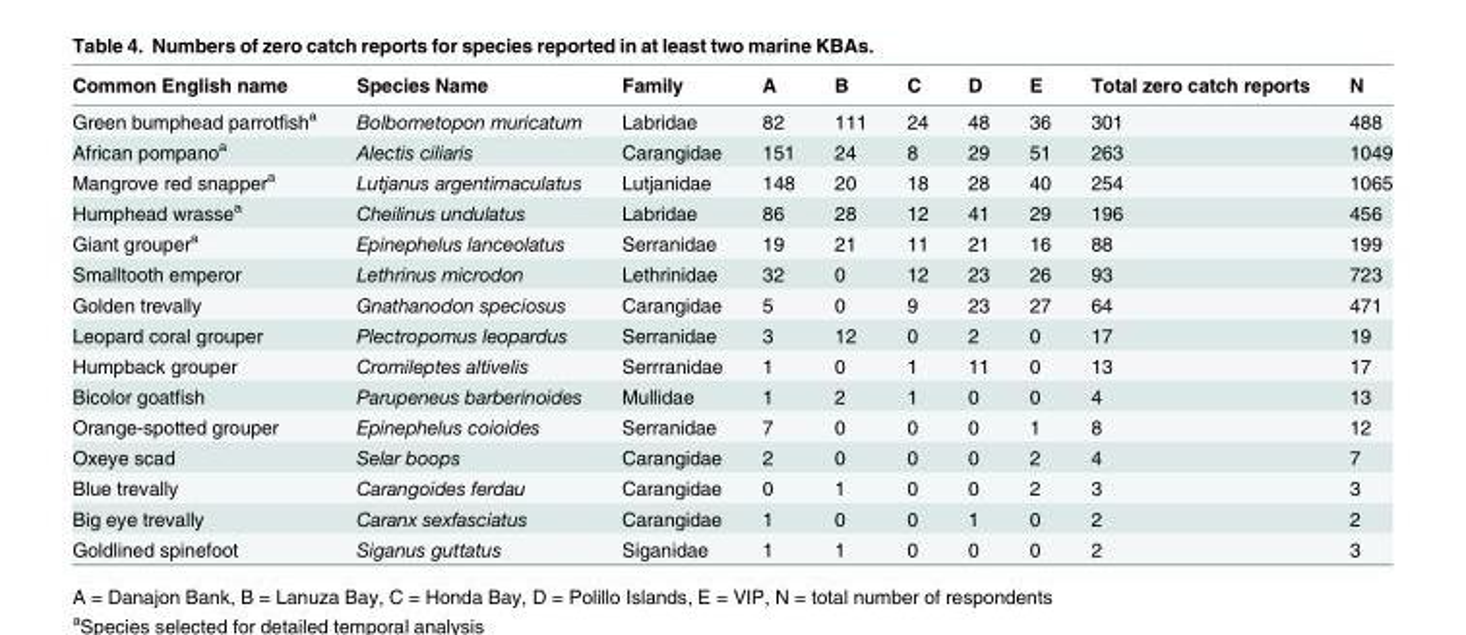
<table><thead><tr><td>Common English name</td><td>Species Name</td><td>Family</td><td>A</td><td>B</td><td>C</td><td>D</td><td>E</td><td>Total zero catch reports</td><td>N</td></tr></thead><tbody><tr><td>Green bumphead parrotfish<sup>a</sup></td><td>Bolbometopon muricatum</td><td>Labridae</td><td>82</td><td>111</td><td>24</td><td>48</td><td>36</td><td>301</td><td>488</td></tr><tr><td>African pompano<sup>a</sup></td><td>Alectis ciliaris</td><td>Carangidae</td><td>151</td><td>24</td><td>8</td><td>29</td><td>51</td><td>263</td><td>1049</td></tr><tr><td>Mangrove red snapper<sup>a</sup></td><td>Lutjanus argentimaculatus</td><td>Lutjanidae</td><td>148</td><td>20</td><td>18</td><td>28</td><td>40</td><td>254</td><td>1065</td></tr><tr><td>Humphead wrasse<sup>a</sup></td><td>Cheilinus undulatus</td><td>Labridae</td><td>86</td><td>28</td><td>12</td><td>41</td><td>29</td><td>196</td><td>456</td></tr><tr><td>Giant grouper<sup>a</sup></td><td>Epinephelus lanceolatus</td><td>Serranidae</td><td>19</td><td>21</td><td>11</td><td>21</td><td>16</td><td>88</td><td>199</td></tr><tr><td>Smalltooth emperor</td><td>Lethrinus microdon</td><td>Lethrinidae</td><td>32</td><td>0</td><td>12</td><td>23</td><td>26</td><td>93</td><td>723</td></tr><tr><td>Golden trevally</td><td>Gnathanodon speciosus</td><td>Carangidae</td><td>5</td><td>0</td><td>9</td><td>23</td><td>27</td><td>64</td><td>471</td></tr><tr><td>Leopard coral grouper</td><td>Plectropomus leopardus</td><td>Serranidae</td><td>3</td><td>12</td><td>0</td><td>2</td><td>0</td><td>17</td><td>19</td></tr><tr><td>Humpback grouper</td><td>Cromileptes altivelis</td><td>Serrranidae</td><td>1</td><td>0</td><td>1</td><td>11</td><td>0</td><td>13</td><td>17</td></tr><tr><td>Bicolor goatfish</td><td>Parupeneus barberinoides</td><td>Mullidae</td><td>1</td><td>2</td><td>1</td><td>0</td><td>0</td><td>4</td><td>13</td></tr><tr><td>Orange-spotted grouper</td><td>Epinephelus coioides</td><td>Serranidae</td><td>7</td><td>0</td><td>0</td><td>0</td><td>1</td><td>8</td><td>12</td></tr><tr><td>Oxeye scad</td><td>Selar boops</td><td>Carangidae</td><td>2</td><td>0</td><td>0</td><td>0</td><td>2</td><td>4</td><td>7</td></tr><tr><td>Blue trevally</td><td>Carangoides ferdau</td><td>Carangidae</td><td>0</td><td>1</td><td>0</td><td>0</td><td>2</td><td>3</td><td>3</td></tr><tr><td>Big eye trevally</td><td>Caranx sexfasciatus</td><td>Carangidae</td><td>1</td><td>0</td><td>0</td><td>1</td><td>0</td><td>2</td><td>2</td></tr><tr><td>Goldlined spinefoot</td><td>Siganus guttatus</td><td>Siganidae</td><td>1</td><td>1</td><td>0</td><td>0</td><td>0</td><td>2</td><td>3</td></tr></tbody></table>